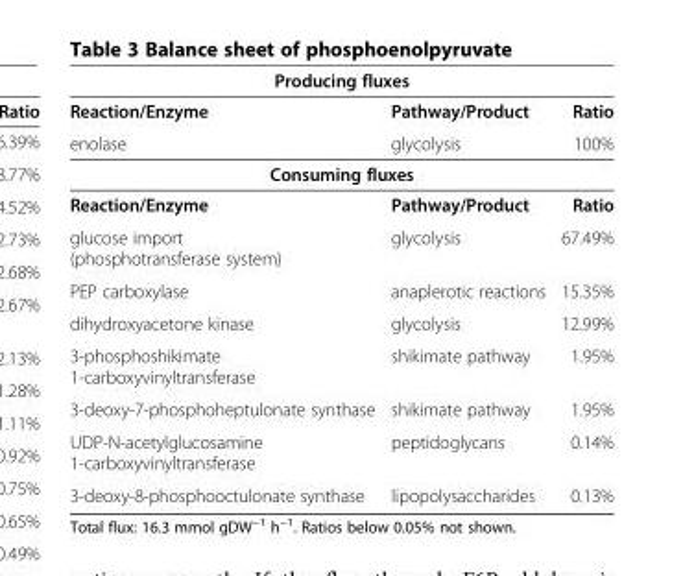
<table><tbody><tr><td colspan="3">Producing fluxes</td></tr><tr><td>Reaction/Enzyme</td><td>Pathway/Product</td><td>Ratio</td></tr><tr><td>enolase</td><td>glycolysis</td><td>100%</td></tr><tr><td colspan="3">Consuming fluxes</td></tr><tr><td>Reaction/Enzyme</td><td>Pathway/Product</td><td>Ratio</td></tr><tr><td>glucose import (phosphotransferase system)</td><td>glycolysis</td><td>67.49%</td></tr><tr><td>PEP carboxylase</td><td>anaplerotic reactions</td><td>15.35%</td></tr><tr><td>dihydroxyacetone kinase</td><td>glycolysis</td><td>12.99%</td></tr><tr><td>3-phosphoshikimate 1-carboxyvinyltransferase</td><td>shikimate pathway</td><td>1.95%</td></tr><tr><td>3-deoxy-7-phosphoheptulonate synthase</td><td>shikimate pathway</td><td>1.95%</td></tr><tr><td>UDP-N-acetylglucosamine 1-carboxyvinyltransferase</td><td>peptidoglycans</td><td>0.14%</td></tr><tr><td>3-deoxy-8-phosphooctulonate synthase</td><td>lipopolysaccharides</td><td>0.13%</td></tr></tbody></table>